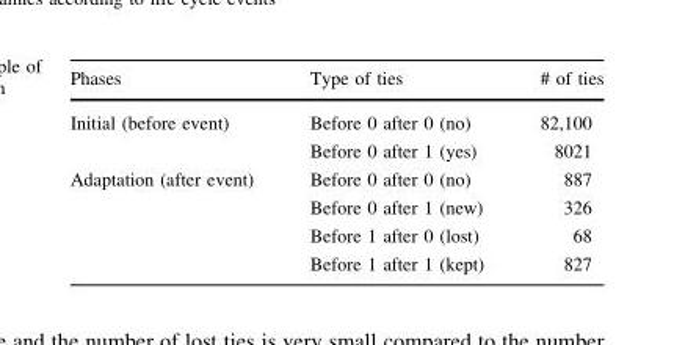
<table><thead><tr><td>Phases</td><td>Type of ties</td><td># of ties</td></tr></thead><tbody><tr><td rowspan="2">Initial (before event)</td><td>Before 0 after 0 (no)</td><td>82,100</td></tr><tr><td>Before 0 after 1 (yes)</td><td>8021</td></tr><tr><td rowspan="4">Adaptation (after event)</td><td>Before 0 after 0 (no)</td><td>887</td></tr><tr><td>Before 0 after 1 (new)</td><td>326</td></tr><tr><td>Before 1 after 0 (lost)</td><td>68</td></tr><tr><td>Before 1 after 1 (kept)</td><td>827</td></tr></tbody></table>